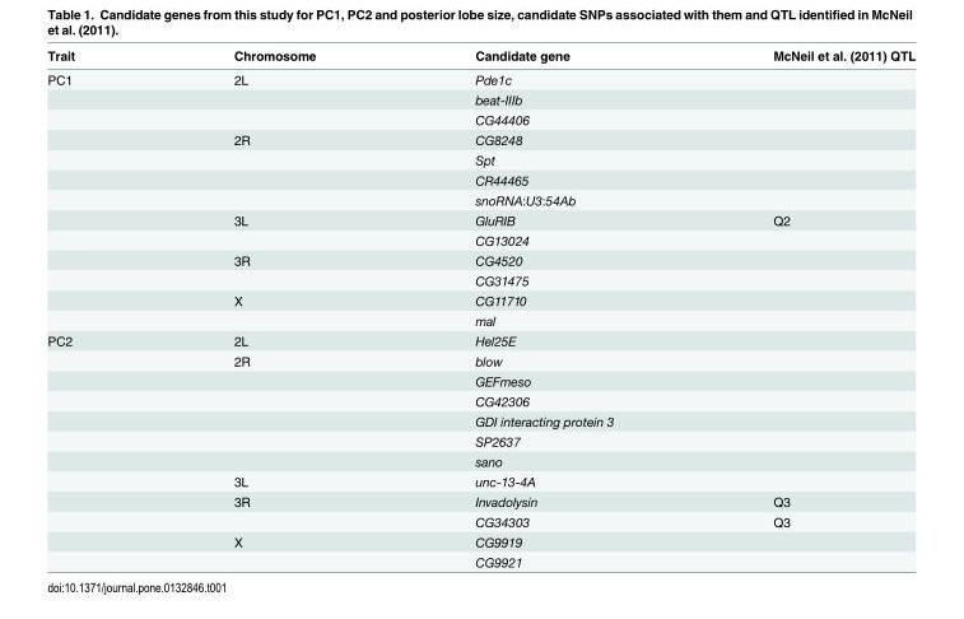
<table><thead><tr><td>Trait</td><td>Chromosome</td><td>Candidate gene</td><td>McNeil et al. (2011) QTL</td></tr></thead><tbody><tr><td rowspan="13">PC1</td><td>2L</td><td>Pde1c</td><td></td></tr><tr><td></td><td>beat-IIIb</td><td></td></tr><tr><td></td><td>CG44406</td><td></td></tr><tr><td>2R</td><td>CG8248</td><td></td></tr><tr><td></td><td>Spt</td><td></td></tr><tr><td></td><td>CR44465</td><td></td></tr><tr><td></td><td>snoRNA:U3:54Ab</td><td></td></tr><tr><td>3L</td><td>GluRIB</td><td>Q2</td></tr><tr><td></td><td>CG13024</td><td></td></tr><tr><td>3R</td><td>CG4520</td><td></td></tr><tr><td></td><td>CG31475</td><td></td></tr><tr><td>X</td><td>CG11710</td><td></td></tr><tr><td></td><td>mal</td><td></td></tr><tr><td rowspan="12">PC2</td><td>2L</td><td>Hel25E</td><td></td></tr><tr><td>2R</td><td>blow</td><td></td></tr><tr><td></td><td>GEFmeso</td><td></td></tr><tr><td></td><td>CG42306</td><td></td></tr><tr><td></td><td>GDI interacting protein 3</td><td></td></tr><tr><td></td><td>SP2637</td><td></td></tr><tr><td></td><td>sano</td><td></td></tr><tr><td>3L</td><td>unc-13-4A</td><td></td></tr><tr><td>3R</td><td>Invadolysin</td><td>Q3</td></tr><tr><td></td><td>CG34303</td><td>Q3</td></tr><tr><td>X</td><td>CG9919</td><td></td></tr><tr><td></td><td>CG9921</td><td></td></tr></tbody></table>